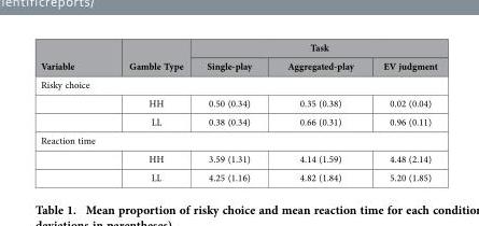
<table><thead><tr><td rowspan="2">Variable</td><td rowspan="2">Gamble Type</td><td colspan="3">Task</td></tr><tr><td>Single-play</td><td>Aggregated-play</td><td>EV judgment</td></tr></thead><tbody><tr><td colspan="5">Risky choice</td></tr><tr><td></td><td>HH</td><td>0.50 (0.34)</td><td>0.35 (0.38)</td><td>0.02 (0.04)</td></tr><tr><td></td><td>LL</td><td>0.38 (0.34)</td><td>0.66 (0.31)</td><td>0.96 (0.11)</td></tr><tr><td colspan="5">Reaction time</td></tr><tr><td></td><td>HH</td><td>3.59 (1.31)</td><td>4.14 (1.59)</td><td>4.48 (2.14)</td></tr><tr><td></td><td>LL</td><td>4.25 (1.16)</td><td>4.82 (1.84)</td><td>5.20 (1.85)</td></tr></tbody></table>